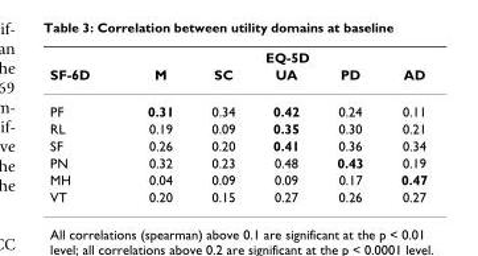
<table><thead><tr><td rowspan="2">SF-6D</td><td colspan="5">EQ-5D</td></tr><tr><td>M</td><td>SC</td><td>UA</td><td>PD</td><td>AD</td></tr></thead><tbody><tr><td>PF</td><td>0.31</td><td>0.34</td><td>0.42</td><td>0.24</td><td>0.11</td></tr><tr><td>RL</td><td>0.19</td><td>0.09</td><td>0.35</td><td>0.30</td><td>0.21</td></tr><tr><td>SF</td><td>0.26</td><td>0.20</td><td>0.41</td><td>0.36</td><td>0.34</td></tr><tr><td>PN</td><td>0.32</td><td>0.23</td><td>0.48</td><td>0.43</td><td>0.19</td></tr><tr><td>MH</td><td>0.04</td><td>0.09</td><td>0.09</td><td>0.17</td><td>0.47</td></tr><tr><td>VT</td><td>0.20</td><td>0.15</td><td>0.27</td><td>0.26</td><td>0.27</td></tr></tbody></table>